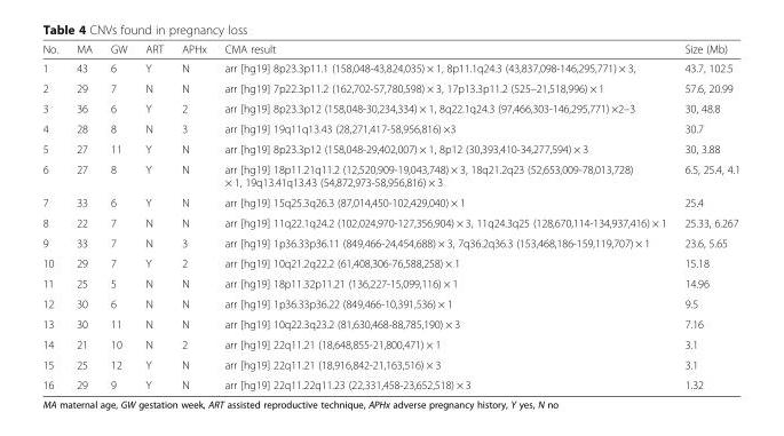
<table><thead><tr><td>No.</td><td>MA</td><td>GW</td><td>ART</td><td>APHx</td><td>CMA result</td><td>Size (Mb)</td></tr></thead><tbody><tr><td>1</td><td>43</td><td>6</td><td>Y</td><td>N</td><td>arr [hg19] 8p23.3p11.1 (158,048-43,824,035) × 1, 8p11.1q24.3 (43,837,098-146,295,771) × 3,</td><td>43.7, 102.5</td></tr><tr><td>2</td><td>29</td><td>7</td><td>N</td><td>N</td><td>arr [hg19] 7p22.3p11.2 (162,702-57,780,598) × 3, 17p13.3p11.2 (525–21,518,996) × 1</td><td>57.6, 20.99</td></tr><tr><td>3</td><td>36</td><td>6</td><td>Y</td><td>2</td><td>arr [hg19] 8p23.3p12 (158,048-30,234,334) × 1, 8q22.1q24.3 (97,466,303-146,295,771) ×2–3</td><td>30, 48.8</td></tr><tr><td>4</td><td>28</td><td>8</td><td>N</td><td>3</td><td>arr [hg19] 19q11q13.43 (28,271,417-58,956,816) ×3</td><td>30.7</td></tr><tr><td>5</td><td>27</td><td>11</td><td>Y</td><td>N</td><td>arr [hg19] 8p23.3p12 (158,048-29,402,007) × 1, 8p12 (30,393,410-34,277,594) × 3</td><td>30, 3.88</td></tr><tr><td>6</td><td>27</td><td>8</td><td>Y</td><td>N</td><td>arr [hg19] 18p11.21q11.2 (12,520,909-19,043,748) × 3, 18q21.2q23 (52,653,009-78,013,728) × 1, 19q13.41q13.43 (54,872,973-58,956,816) × 3</td><td>6.5, 25.4, 4.1</td></tr><tr><td>7</td><td>33</td><td>6</td><td>Y</td><td>N</td><td>arr [hg19] 15q25.3q26.3 (87,014,450-102,429,040) × 1</td><td>25.4</td></tr><tr><td>8</td><td>22</td><td>7</td><td>N</td><td>N</td><td>arr [hg19] 11q22.1q24.2 (102,024,970-127,356,904) × 3, 11q24.3q25 (128,670,114-134,937,416) × 1</td><td>25.33, 6.267</td></tr><tr><td>9</td><td>33</td><td>7</td><td>N</td><td>3</td><td>arr [hg19] 1p36.33p36.11 (849,466-24,454,688) × 3, 7q36.2q36.3 (153,468,186-159,119,707) × 1</td><td>23.6, 5.65</td></tr><tr><td>10</td><td>29</td><td>7</td><td>Y</td><td>2</td><td>arr [hg19] 10q21.2q22.2 (61,408,306-76,588,258) × 1</td><td>15.18</td></tr><tr><td>11</td><td>25</td><td>5</td><td>N</td><td>N</td><td>arr [hg19] 18p11.32p11.21 (136,227-15,099,116) × 1</td><td>14.96</td></tr><tr><td>12</td><td>30</td><td>6</td><td>N</td><td>N</td><td>arr [hg19] 1p36.33p36.22 (849,466-10,391,536) × 1</td><td>9.5</td></tr><tr><td>13</td><td>30</td><td>11</td><td>N</td><td>N</td><td>arr [hg19] 10q22.3q23.2 (81,630,468-88,785,190) × 3</td><td>7.16</td></tr><tr><td>14</td><td>21</td><td>10</td><td>N</td><td>2</td><td>arr [hg19] 22q11.21 (18,648,855-21,800,471) × 1</td><td>3.1</td></tr><tr><td>15</td><td>25</td><td>12</td><td>Y</td><td>N</td><td>arr [hg19] 22q11.21 (18,916,842-21,163,516) × 3</td><td>3.1</td></tr><tr><td>16</td><td>29</td><td>9</td><td>Y</td><td>N</td><td>arr [hg19] 22q11.22q11.23 (22,331,458-23,652,518) × 3</td><td>1.32</td></tr></tbody></table>